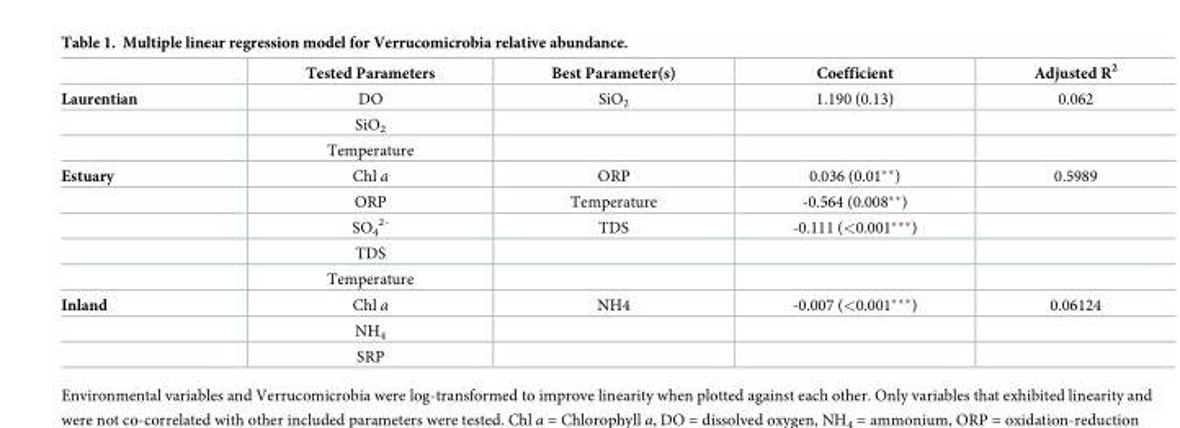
<table><thead><tr><td></td><td>Tested Parameters</td><td>Best Parameter(s)</td><td>Coefficient</td><td>Adjusted R<sup>2</sup></td></tr></thead><tbody><tr><td rowspan="3">Laurentian</td><td>DO</td><td>SiO<sub>2</sub></td><td>1.190 (0.13)</td><td>0.062</td></tr><tr><td>SiO<sub>2</sub></td><td></td><td></td><td></td></tr><tr><td>Temperature</td><td></td><td></td><td></td></tr><tr><td rowspan="5">Estuary</td><td>Chl a</td><td>ORP</td><td>0.036 (0.01**)</td><td>0.5989</td></tr><tr><td>ORP</td><td>Temperature</td><td>-0.564 (0.008**)</td><td></td></tr><tr><td>SO<sub>4</sub> <sup>2-</sup></td><td>TDS</td><td>-0.111 (&lt;0.001***)</td><td></td></tr><tr><td>TDS</td><td></td><td></td><td></td></tr><tr><td>Temperature</td><td></td><td></td><td></td></tr><tr><td rowspan="3">Inland</td><td>Chl a</td><td>NH4</td><td>-0.007 (&lt;0.001***)</td><td>0.06124</td></tr><tr><td>NH<sub>4</sub></td><td></td><td></td><td></td></tr><tr><td>SRP</td><td></td><td></td><td></td></tr></tbody></table>